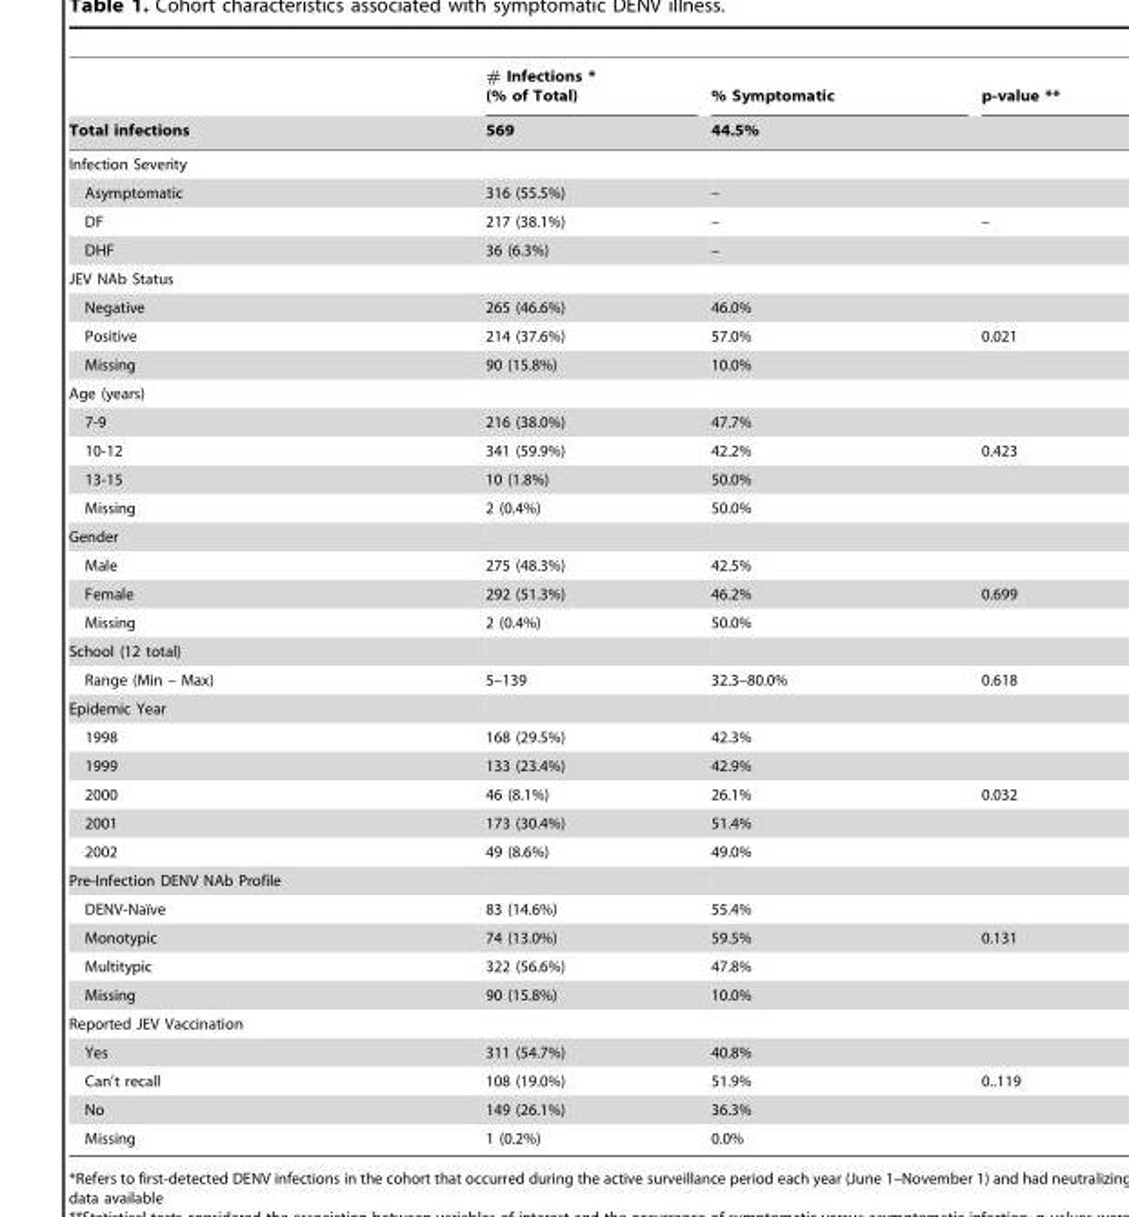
<table><thead><tr><td rowspan="2">Total infections</td><td rowspan="2"># Infections * (% of Total) 569</td><td rowspan="2">% Symptomatic 44.5%</td><td rowspan="2">p-value **</td></tr><tr></tr></thead><tbody><tr><td colspan="4">Infection Severity</td></tr><tr><td>Asymptomatic</td><td>316 (55.5%)</td><td>–</td><td></td></tr><tr><td>DF</td><td>217 (38.1%)</td><td>–</td><td>–</td></tr><tr><td>DHF</td><td>36 (6.3%)</td><td>–</td><td></td></tr><tr><td colspan="4">JEV NAb Status</td></tr><tr><td>Negative</td><td>265 (46.6%)</td><td>46.0%</td><td></td></tr><tr><td>Positive</td><td>214 (37.6%)</td><td>57.0%</td><td>0.021</td></tr><tr><td>Missing</td><td>90 (15.8%)</td><td>10.0%</td><td></td></tr><tr><td colspan="4">Age (years)</td></tr><tr><td>7-9</td><td>216 (38.0%)</td><td>47.7%</td><td></td></tr><tr><td>10-12</td><td>341 (59.9%)</td><td>42.2%</td><td>0.423</td></tr><tr><td>13-15</td><td>10 (1.8%)</td><td>50.0%</td><td></td></tr><tr><td>Missing</td><td>2 (0.4%)</td><td>50.0%</td><td></td></tr><tr><td colspan="4">Gender</td></tr><tr><td>Male</td><td>275 (48.3%)</td><td>42.5%</td><td></td></tr><tr><td>Female</td><td>292 (51.3%)</td><td>46.2%</td><td>0.699</td></tr><tr><td>Missing</td><td>2 (0.4%)</td><td>50.0%</td><td></td></tr><tr><td colspan="4">School (12 total)</td></tr><tr><td>Range (Min – Max)</td><td>5–139</td><td>32.3–80.0%</td><td>0.618</td></tr><tr><td colspan="4">Epidemic Year</td></tr><tr><td>1998</td><td>168 (29.5%)</td><td>42.3%</td><td></td></tr><tr><td>1999</td><td>133 (23.4%)</td><td>42.9%</td><td></td></tr><tr><td>2000</td><td>46 (8.1%)</td><td>26.1%</td><td>0.032</td></tr><tr><td>2001</td><td>173 (30.4%)</td><td>51.4%</td><td></td></tr><tr><td>2002</td><td>49 (8.6%)</td><td>49.0%</td><td></td></tr><tr><td colspan="4">Pre-Infection DENV NAb Profile</td></tr><tr><td>DENV-Naı¨ve</td><td>83 (14.6%)</td><td>55.4%</td><td></td></tr><tr><td>Monotypic</td><td>74 (13.0%)</td><td>59.5%</td><td>0.131</td></tr><tr><td>Multitypic</td><td>322 (56.6%)</td><td>47.8%</td><td></td></tr><tr><td>Missing</td><td>90 (15.8%)</td><td>10.0%</td><td></td></tr><tr><td colspan="4">Reported JEV Vaccination</td></tr><tr><td>Yes</td><td>311 (54.7%)</td><td>40.8%</td><td></td></tr><tr><td>Can’t recall</td><td>108 (19.0%)</td><td>51.9%</td><td>0..119</td></tr><tr><td>No</td><td>149 (26.1%)</td><td>36.3%</td><td></td></tr><tr><td>Missing</td><td>1 (0.2%)</td><td>0.0%</td><td></td></tr></tbody></table>